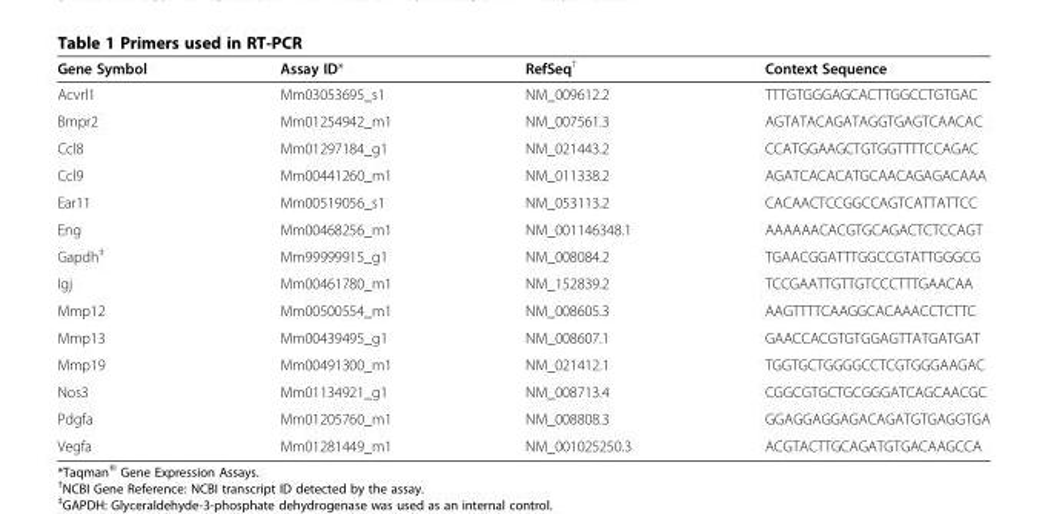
<table><thead><tr><td>Gene Symbol</td><td>Assay ID*</td><td>RefSeq<sup>†</sup></td><td>Context Sequence</td></tr></thead><tbody><tr><td>Acvrl1</td><td>Mm03053695_s1</td><td>NM_009612.2</td><td>TTTGTGGGAGCACTTGGCCTGTGAC</td></tr><tr><td>Bmpr2</td><td>Mm01254942_m1</td><td>NM_007561.3</td><td>AGTATACAGATAGGTGAGTCAACAC</td></tr><tr><td>Ccl8</td><td>Mm01297184_g1</td><td>NM_021443.2</td><td>CCATGGAAGCTGTGGTTTTCCAGAC</td></tr><tr><td>Ccl9</td><td>Mm00441260_m1</td><td>NM_011338.2</td><td>AGATCACACATGCAACAGAGACAAA</td></tr><tr><td>Ear11</td><td>Mm00519056_s1</td><td>NM_053113.2</td><td>CACAACTCCGGCCAGTCATTATTCC</td></tr><tr><td>Eng</td><td>Mm00468256_m1</td><td>NM_001146348.1</td><td>AAAAAACACGTGCAGACTCTCCAGT</td></tr><tr><td>Gapdh<sup>‡</sup></td><td>Mm99999915_g1</td><td>NM_008084.2</td><td>TGAACGGATTTGGCCGTATTGGGCG</td></tr><tr><td>Igj</td><td>Mm00461780_m1</td><td>NM_152839.2</td><td>TCCGAATTGTTGTCCCTTTGAACAA</td></tr><tr><td>Mmp12</td><td>Mm00500554_m1</td><td>NM_008605.3</td><td>AAGTTTTCAAGGCACAAACCTCTTC</td></tr><tr><td>Mmp13</td><td>Mm00439495_g1</td><td>NM_008607.1</td><td>GAACCACGTGTGGAGTTATGATGAT</td></tr><tr><td>Mmp19</td><td>Mm00491300_m1</td><td>NM_021412.1</td><td>TGGTGCTGGGGCCTCGTGGGAAGAC</td></tr><tr><td>Nos3</td><td>Mm01134921_g1</td><td>NM_008713.4</td><td>CGGCGTGCTGCGGGATCAGCAACGC</td></tr><tr><td>Pdgfa</td><td>Mm01205760_m1</td><td>NM_008808.3</td><td>GGAGGAGGAGACAGATGTGAGGTGA</td></tr><tr><td>Vegfa</td><td>Mm01281449_m1</td><td>NM_001025250.3</td><td>ACGTACTTGCAGATGTGACAAGCCA</td></tr></tbody></table>